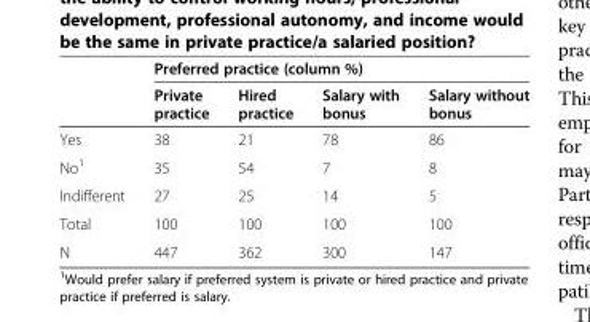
<table><thead><tr><td rowspan="2"></td><td colspan="4">Preferred practice (column %)</td></tr><tr><td>Private practice</td><td>Hired practice</td><td>Salary with bonus</td><td>Salary without bonus</td></tr></thead><tbody><tr><td>Yes</td><td>38</td><td>21</td><td>78</td><td>86</td></tr><tr><td>No<sup>1</sup></td><td>35</td><td>54</td><td>7</td><td>8</td></tr><tr><td>Indifferent</td><td>27</td><td>25</td><td>14</td><td>5</td></tr><tr><td>Total</td><td>100</td><td>100</td><td>100</td><td>100</td></tr><tr><td>N</td><td>447</td><td>362</td><td>300</td><td>147</td></tr></tbody></table>